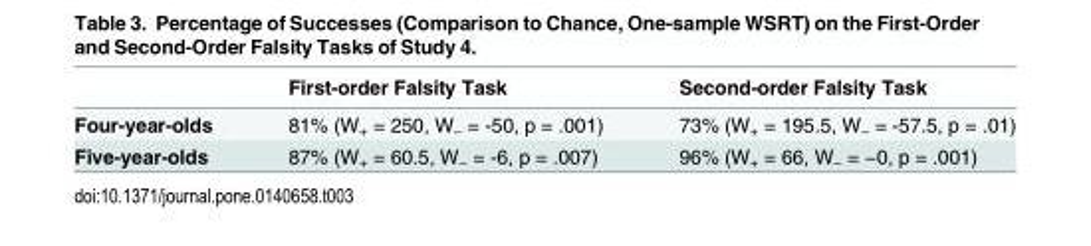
<table><thead><tr><td></td><td>First-order Falsity Task</td><td>Second-order Falsity Task</td></tr></thead><tbody><tr><td>Four-year-olds</td><td>81% (W<sub>+</sub> = 250, W<sub>−</sub> = -50, p = .001)</td><td>73% (W<sub>+</sub> = 195.5, W<sub>−</sub> = -57.5, p = .01)</td></tr><tr><td>Five-year-olds</td><td>87% (W<sub>+</sub> = 60.5, W<sub>−</sub> = -6, p = .007)</td><td>96% (W<sub>+</sub> = 66, W<sub>−</sub> = −0, p = .001)</td></tr></tbody></table>